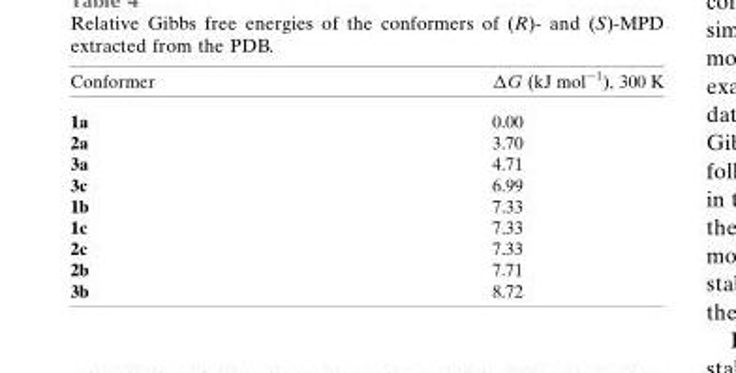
<table><thead><tr><td>Conformer</td><td>�G (kJ mol�1), 300 K</td></tr></thead><tbody><tr><td>1a</td><td>0.00</td></tr><tr><td>2a</td><td>3.70</td></tr><tr><td>3a</td><td>4.71</td></tr><tr><td>3c</td><td>6.99</td></tr><tr><td>1b</td><td>7.33</td></tr><tr><td>1c</td><td>7.33</td></tr><tr><td>2c</td><td>7.33</td></tr><tr><td>2b</td><td>7.71</td></tr><tr><td>3b</td><td>8.72</td></tr></tbody></table>